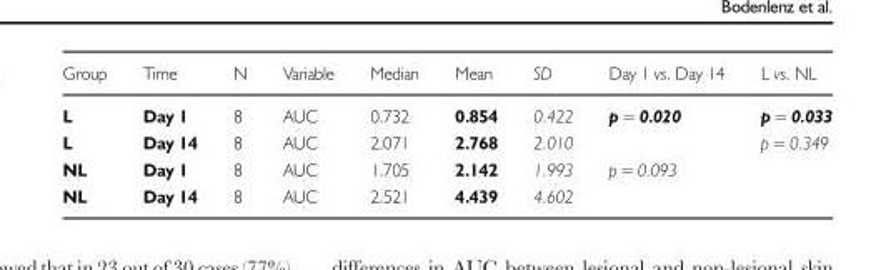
<table><thead><tr><td>Group</td><td>Time</td><td>N</td><td>Variable</td><td>Median</td><td>Mean</td><td>SD</td><td>Day 1 vs. Day 14</td><td>L vs. NL</td></tr></thead><tbody><tr><td>L</td><td>Day 1</td><td>8</td><td>AUC</td><td>0.732</td><td>0.854</td><td>0.422</td><td rowspan="2">p = 0.020</td><td>p = 0.033</td></tr><tr><td>L</td><td>Day 14</td><td>8</td><td>AUC</td><td>2.071</td><td>2.768</td><td>2.010</td><td>p = 0.349</td></tr><tr><td>NL</td><td>Day 1</td><td>8</td><td>AUC</td><td>1.705</td><td>2.142</td><td>1.993</td><td rowspan="2">p = 0.093</td><td></td></tr><tr><td>NL</td><td>Day 14</td><td>8</td><td>AUC</td><td>2.521</td><td>4.439</td><td>4.602</td><td></td></tr></tbody></table>